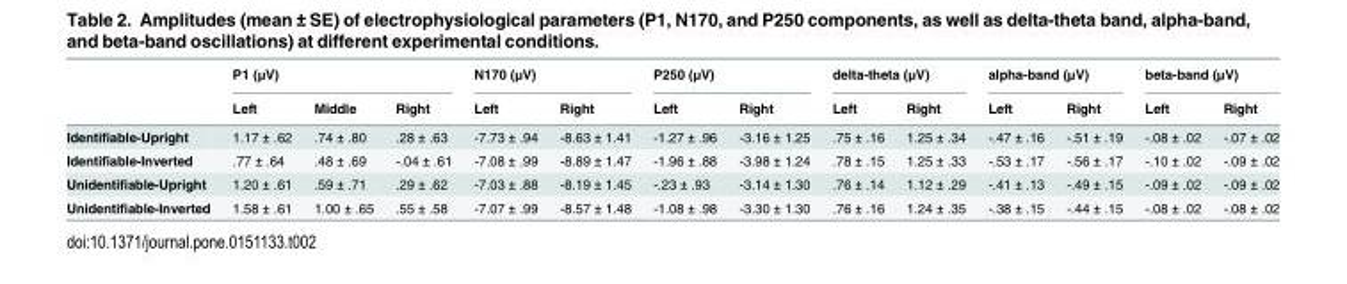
<table><thead><tr><td rowspan="2"></td><td colspan="3">P1 (μV)</td><td colspan="2">N170 (μV)</td><td colspan="2">P250 (μV)</td><td colspan="2">delta-theta (μV)</td><td colspan="2">alpha-band (μV)</td><td colspan="2">beta-band (μV)</td></tr><tr><td>Left</td><td>Middle</td><td>Right</td><td>Left</td><td>Right</td><td>Left</td><td>Right</td><td>Left</td><td>Right</td><td>Left</td><td>Right</td><td>Left</td><td>Right</td></tr></thead><tbody><tr><td>Identifiable-Upright</td><td>1.17 ± .62</td><td>.74 ± .80</td><td>.28 ± .63</td><td>-7.73 ± .94</td><td>-8.63 ± 1.41</td><td>-1.27 ± .96</td><td>-3.16 ± 1.25</td><td>.75 ± .16</td><td>1.25 ± .34</td><td>-.47 ± .16</td><td>-.51 ± .19</td><td>-.08 ± .02</td><td>-.07 ± .02</td></tr><tr><td>Identifiable-Inverted</td><td>.77 ± .64</td><td>.48 ± .69</td><td>-.04 ± .61</td><td>-7.08 ± .99</td><td>-8.89 ± 1.47</td><td>-1.96 ± .88</td><td>-3.98 ± 1.24</td><td>.78 ± .15</td><td>1.25 ± .33</td><td>-.53 ± .17</td><td>-.56 ± .17</td><td>-.10 ± .02</td><td>-.09 ± .02</td></tr><tr><td>Unidentifiable-Upright</td><td>1.20 ± .61</td><td>.59 ± .71</td><td>.29 ± .62</td><td>-7.03 ± .88</td><td>-8.19 ± 1.45</td><td>-.23 ± .93</td><td>-3.14 ± 1.30</td><td>.76 ± .14</td><td>1.12 ± .29</td><td>-.41 ± .13</td><td>-.49 ± .15</td><td>-.09 ± .02</td><td>-.09 ± .02</td></tr><tr><td>Unidentifiable-Inverted</td><td>1.58 ± .61</td><td>1.00 ± .65</td><td>.55 ± .58</td><td>-7.07 ± .99</td><td>-8.57 ± 1.48</td><td>-1.08 ± .98</td><td>-3.30 ± 1.30</td><td>.76 ± .16</td><td>1.24 ± .35</td><td>-.38 ± .15</td><td>-.44 ± .15</td><td>-.08 ± .02</td><td>-.08 ± .02</td></tr></tbody></table>